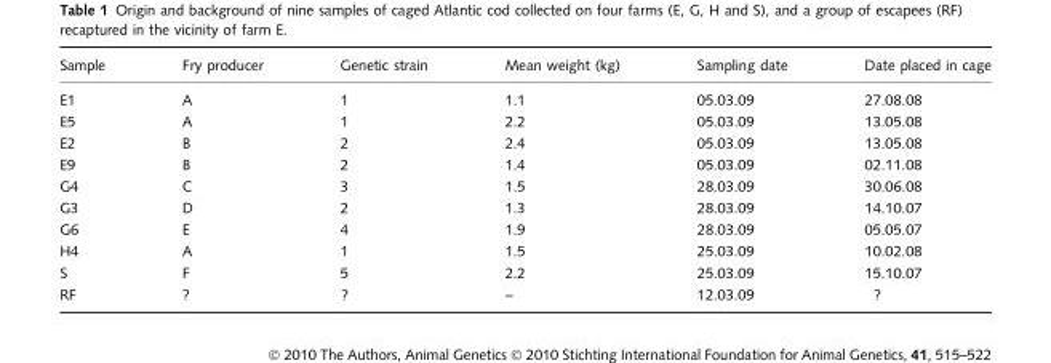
<table><thead><tr><td>Sample</td><td>Fry producer</td><td>Genetic strain</td><td>Mean weight (kg)</td><td>Sampling date</td><td>Date placed in cage</td></tr></thead><tbody><tr><td>E1</td><td>A</td><td>1</td><td>1.1</td><td>05.03.09</td><td>27.08.08</td></tr><tr><td>E5</td><td>A</td><td>1</td><td>2.2</td><td>05.03.09</td><td>13.05.08</td></tr><tr><td>E2</td><td>B</td><td>2</td><td>2.4</td><td>05.03.09</td><td>13.05.08</td></tr><tr><td>E9</td><td>B</td><td>2</td><td>1.4</td><td>05.03.09</td><td>02.11.08</td></tr><tr><td>G4</td><td>C</td><td>3</td><td>1.5</td><td>28.03.09</td><td>30.06.08</td></tr><tr><td>G3</td><td>D</td><td>2</td><td>1.3</td><td>28.03.09</td><td>14.10.07</td></tr><tr><td>G6</td><td>E</td><td>4</td><td>1.9</td><td>28.03.09</td><td>05.05.07</td></tr><tr><td>H4</td><td>A</td><td>1</td><td>1.5</td><td>25.03.09</td><td>10.02.08</td></tr><tr><td>S</td><td>F</td><td>5</td><td>2.2</td><td>25.03.09</td><td>15.10.07</td></tr><tr><td>RF</td><td>?</td><td>?</td><td>–</td><td>12.03.09</td><td>?</td></tr></tbody></table>